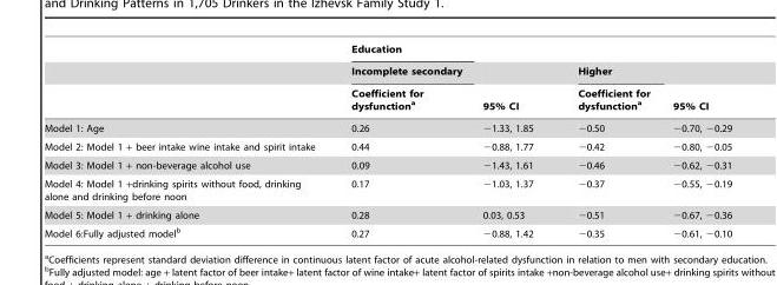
<table><thead><tr><td rowspan="3"></td><td rowspan="3">Education Incomplete secondary Coefficient for dysfunction<sup>a</sup></td><td rowspan="3">95% CI</td><td rowspan="3">Higher Coefficient for dysfunction<sup>a</sup></td><td rowspan="3">95% CI</td></tr><tr></tr><tr></tr></thead><tbody><tr><td>Model 1: Age</td><td>0.26</td><td>−1.33, 1.85</td><td>−0.50</td><td>−0.70, −0.29</td></tr><tr><td>Model 2: Model 1 + beer intake wine intake and spirit intake</td><td>0.44</td><td>−0.88, 1.77</td><td>−0.42</td><td>−0.80, −0.05</td></tr><tr><td>Model 3: Model 1 + non-beverage alcohol use</td><td>0.09</td><td>−1.43, 1.61</td><td>−0.46</td><td>−0.62, −0.31</td></tr><tr><td>Model 4: Model 1 +drinking spirits without food, drinking alone and drinking before noon</td><td>0.17</td><td>−1.03, 1.37</td><td>−0.37</td><td>−0.55, −0.19</td></tr><tr><td>Model 5: Model 1 + drinking alone</td><td>0.28</td><td>0.03, 0.53</td><td>−0.51</td><td>−0.67, −0.36</td></tr><tr><td>Model 6:Fully adjusted model<sup>b</sup></td><td>0.27</td><td>−0.88, 1.42</td><td>−0.35</td><td>−0.61, −0.10</td></tr></tbody></table>